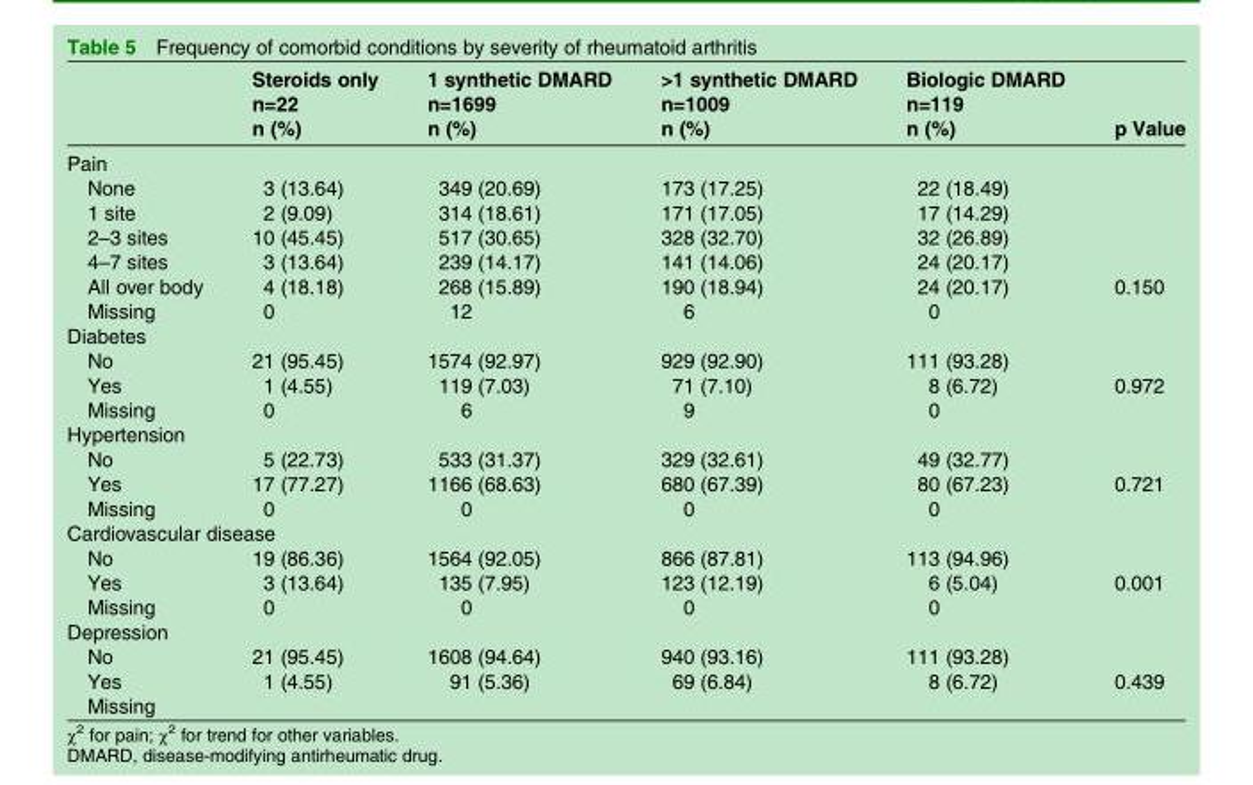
<table><thead><tr><td rowspan="3"></td><td rowspan="3">Steroids only n=22 n (%)</td><td rowspan="3">1 synthetic DMARD n=1699 n (%)</td><td rowspan="3">&gt;1 synthetic DMARD n=1009 n (%)</td><td rowspan="3">Biologic DMARD n=119 n (%)</td><td rowspan="3">p Value</td></tr><tr></tr><tr></tr></thead><tbody><tr><td colspan="6">Pain</td></tr><tr><td>None</td><td>3 (13.64)</td><td>349 (20.69)</td><td>173 (17.25)</td><td>22 (18.49)</td><td></td></tr><tr><td>1 site</td><td>2 (9.09)</td><td>314 (18.61)</td><td>171 (17.05)</td><td>17 (14.29)</td><td></td></tr><tr><td>2–3 sites</td><td>10 (45.45)</td><td>517 (30.65)</td><td>328 (32.70)</td><td>32 (26.89)</td><td></td></tr><tr><td>4–7 sites</td><td>3 (13.64)</td><td>239 (14.17)</td><td>141 (14.06)</td><td>24 (20.17)</td><td></td></tr><tr><td>All over body</td><td>4 (18.18)</td><td>268 (15.89)</td><td>190 (18.94)</td><td>24 (20.17)</td><td>0.150</td></tr><tr><td>Missing</td><td>0</td><td>12</td><td>6</td><td>0</td><td></td></tr><tr><td colspan="6">Diabetes</td></tr><tr><td>No</td><td>21 (95.45)</td><td>1574 (92.97)</td><td>929 (92.90)</td><td>111 (93.28)</td><td></td></tr><tr><td>Yes</td><td>1 (4.55)</td><td>119 (7.03)</td><td>71 (7.10)</td><td>8 (6.72)</td><td>0.972</td></tr><tr><td>Missing</td><td>0</td><td>6</td><td>9</td><td>0</td><td></td></tr><tr><td colspan="6">Hypertension</td></tr><tr><td>No</td><td>5 (22.73)</td><td>533 (31.37)</td><td>329 (32.61)</td><td>49 (32.77)</td><td></td></tr><tr><td>Yes</td><td>17 (77.27)</td><td>1166 (68.63)</td><td>680 (67.39)</td><td>80 (67.23)</td><td>0.721</td></tr><tr><td>Missing</td><td>0</td><td>0</td><td>0</td><td>0</td><td></td></tr><tr><td colspan="6">Cardiovascular disease</td></tr><tr><td>No</td><td>19 (86.36)</td><td>1564 (92.05)</td><td>866 (87.81)</td><td>113 (94.96)</td><td></td></tr><tr><td>Yes</td><td>3 (13.64)</td><td>135 (7.95)</td><td>123 (12.19)</td><td>6 (5.04)</td><td>0.001</td></tr><tr><td>Missing</td><td>0</td><td>0</td><td>0</td><td>0</td><td></td></tr><tr><td colspan="6">Depression</td></tr><tr><td>No</td><td>21 (95.45)</td><td>1608 (94.64)</td><td>940 (93.16)</td><td>111 (93.28)</td><td></td></tr><tr><td>Yes</td><td>1 (4.55)</td><td>91 (5.36)</td><td>69 (6.84)</td><td>8 (6.72)</td><td>0.439</td></tr><tr><td>Missing</td><td></td><td></td><td></td><td></td><td></td></tr></tbody></table>